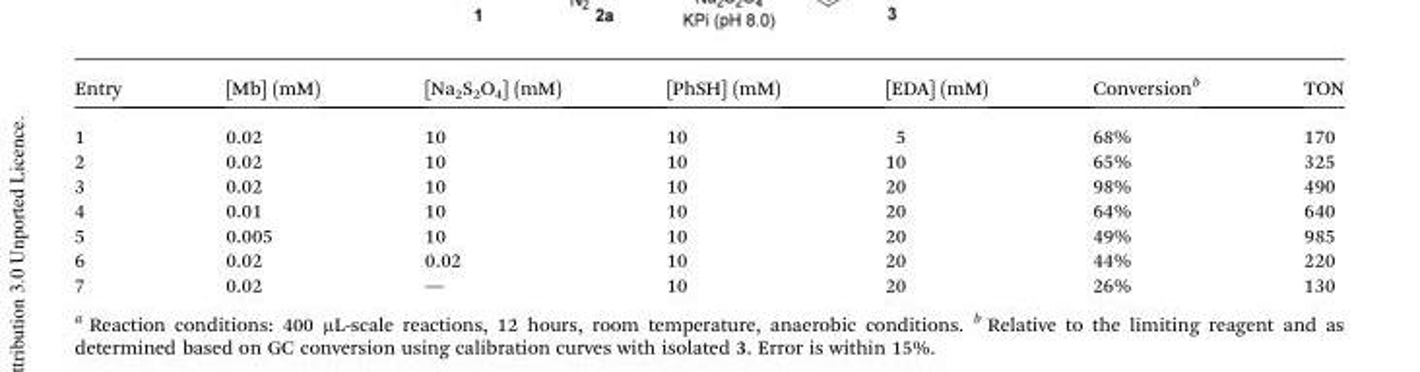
<table><thead><tr><td>Entry</td><td>[Mb] (mM)</td><td>[Na<sub>2</sub>S<sub>2</sub>O<sub>4</sub>] (mM)</td><td>[PhSH] (mM)</td><td>[EDA] (mM)</td><td>Conversion<sup>b</sup></td><td>TON</td></tr></thead><tbody><tr><td>1</td><td>0.02</td><td>10</td><td>10</td><td>5</td><td>68%</td><td>170</td></tr><tr><td>2</td><td>0.02</td><td>10</td><td>10</td><td>10</td><td>65%</td><td>325</td></tr><tr><td>3</td><td>0.02</td><td>10</td><td>10</td><td>20</td><td>98%</td><td>490</td></tr><tr><td>4</td><td>0.01</td><td>10</td><td>10</td><td>20</td><td>64%</td><td>640</td></tr><tr><td>5</td><td>0.005</td><td>10</td><td>10</td><td>20</td><td>49%</td><td>985</td></tr><tr><td>6</td><td>0.02</td><td>0.02</td><td>10</td><td>20</td><td>44%</td><td>220</td></tr><tr><td>7</td><td>0.02</td><td>—</td><td>10</td><td>20</td><td>26%</td><td>130</td></tr></tbody></table>